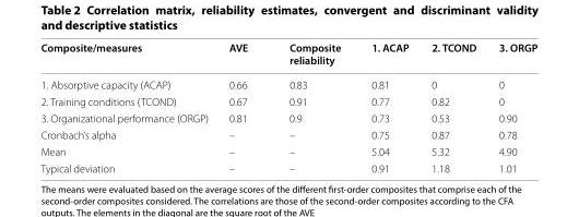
<table><thead><tr><td>Composite/measures</td><td>AVE</td><td>Composite reliability</td><td>1. ACAP</td><td>2. TCOND</td><td>3. ORGP</td></tr></thead><tbody><tr><td>1. Absorptive capacity (ACAP)</td><td>0.66</td><td>0.83</td><td>0.81</td><td>0</td><td>0</td></tr><tr><td>2. Training conditions (TCOND)</td><td>0.67</td><td>0.91</td><td>0.77</td><td>0.82</td><td>0</td></tr><tr><td>3. Organizational performance (ORGP)</td><td>0.81</td><td>0.9</td><td>0.73</td><td>0.53</td><td>0.90</td></tr><tr><td>Cronbach’s alpha</td><td>–</td><td>–</td><td>0.75</td><td>0.87</td><td>0.78</td></tr><tr><td>Mean</td><td>–</td><td>–</td><td>5.04</td><td>5.32</td><td>4.90</td></tr><tr><td>Typical deviation</td><td>–</td><td>–</td><td>0.91</td><td>1.18</td><td>1.01</td></tr></tbody></table>